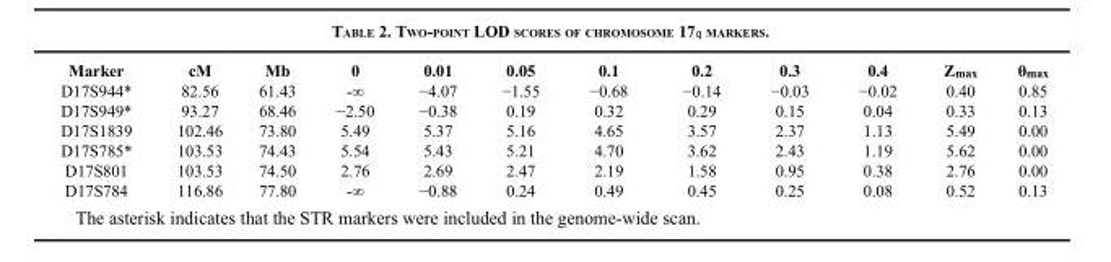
<table><thead><tr><td>Marker</td><td>cM</td><td>Mb</td><td>0</td><td>0.01</td><td>0.05</td><td>0.1</td><td>0.2</td><td>0.3</td><td>0.4</td><td>Z<sub>max</sub></td><td>θ<sub>max</sub></td></tr></thead><tbody><tr><td>D17S944*</td><td>82.56</td><td>61.43</td><td>-∞</td><td>−4.07</td><td>−1.55</td><td>−0.68</td><td>−0.14</td><td>−0.03</td><td>−0.02</td><td>0.40</td><td>0.85</td></tr><tr><td>D17S949*</td><td>93.27</td><td>68.46</td><td>−2.50</td><td>−0.38</td><td>0.19</td><td>0.32</td><td>0.29</td><td>0.15</td><td>0.04</td><td>0.33</td><td>0.13</td></tr><tr><td>D17S1839</td><td>102.46</td><td>73.80</td><td>5.49</td><td>5.37</td><td>5.16</td><td>4.65</td><td>3.57</td><td>2.37</td><td>1.13</td><td>5.49</td><td>0.00</td></tr><tr><td>D17S785*</td><td>103.53</td><td>74.43</td><td>5.54</td><td>5.43</td><td>5.21</td><td>4.70</td><td>3.62</td><td>2.43</td><td>1.19</td><td>5.62</td><td>0.00</td></tr><tr><td>D17S801</td><td>103.53</td><td>74.50</td><td>2.76</td><td>2.69</td><td>2.47</td><td>2.19</td><td>1.58</td><td>0.95</td><td>0.38</td><td>2.76</td><td>0.00</td></tr><tr><td>D17S784</td><td>116.86</td><td>77.80</td><td>-∞</td><td>−0.88</td><td>0.24</td><td>0.49</td><td>0.45</td><td>0.25</td><td>0.08</td><td>0.52</td><td>0.13</td></tr></tbody></table>